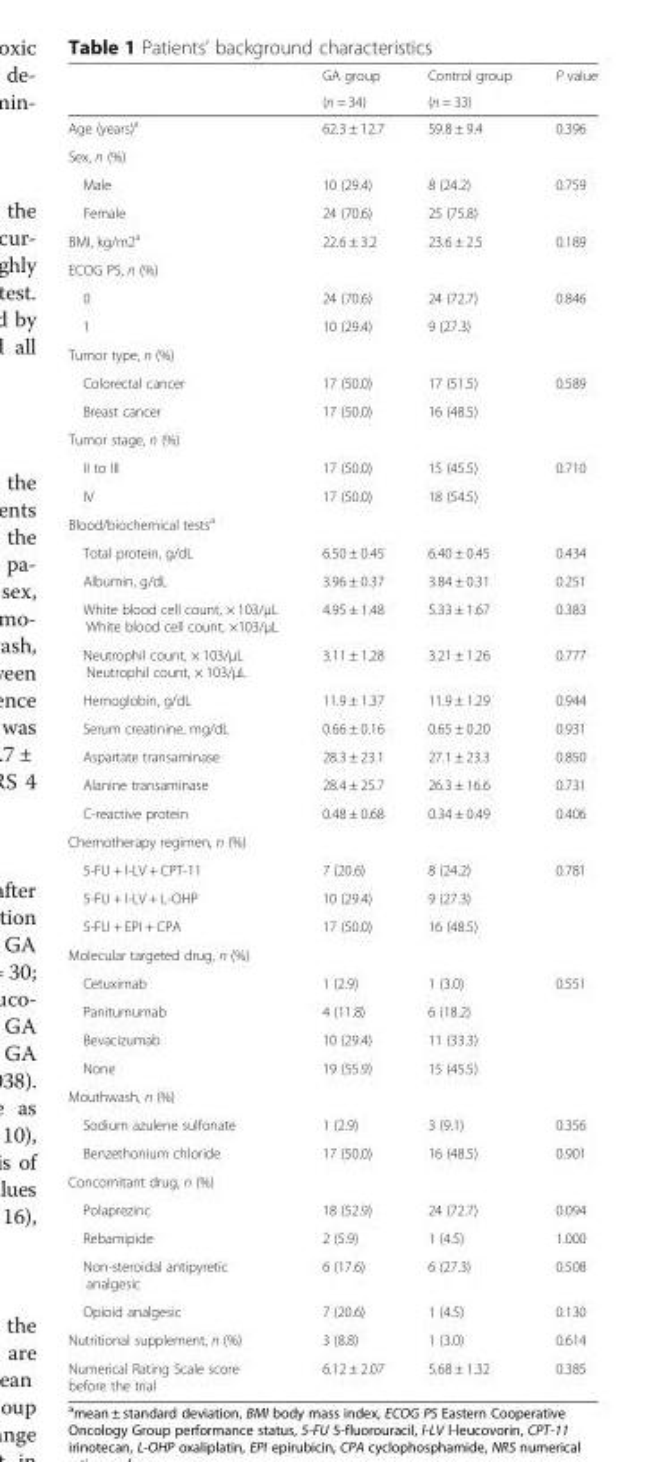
<table><thead><tr><td rowspan="2"></td><td rowspan="2">GA group (n = 34)</td><td rowspan="2">Control group (n = 33)</td><td rowspan="2">P value</td></tr><tr></tr></thead><tbody><tr><td>Age (years)<sup>a</sup></td><td>62.3 ± 12.7</td><td>59.8 ± 9.4</td><td>0.396</td></tr><tr><td colspan="4">Sex, n (%)</td></tr><tr><td>Male</td><td>10 (29.4)</td><td>8 (24.2)</td><td rowspan="2">0.759</td></tr><tr><td>Female</td><td>24 (70.6)</td><td>25 (75.8)</td></tr><tr><td>BMI, kg/m2<sup>a</sup></td><td>22.6 ± 3.2</td><td>23.6 ± 2.5</td><td>0.189</td></tr><tr><td colspan="4">ECOG PS, n (%)</td></tr><tr><td>0</td><td>24 (70.6)</td><td>24 (72.7)</td><td rowspan="2">0.846</td></tr><tr><td>1</td><td>10 (29.4)</td><td>9 (27.3)</td></tr><tr><td colspan="4">Tumor type, n (%)</td></tr><tr><td>Colorectal cancer</td><td>17 (50.0)</td><td>17 (51.5)</td><td rowspan="2">0.589</td></tr><tr><td>Breast cancer</td><td>17 (50.0)</td><td>16 (48.5)</td></tr><tr><td colspan="4">Tumor stage, n (%)</td></tr><tr><td>II to III</td><td>17 (50.0)</td><td>15 (45.5)</td><td rowspan="2">0.710</td></tr><tr><td>IV</td><td>17 (50.0)</td><td>18 (54.5)</td></tr><tr><td colspan="4">Blood/biochemical tests<sup>a</sup></td></tr><tr><td>Total protein, g/dL</td><td>6.50 ± 0.45</td><td>6.40 ± 0.45</td><td>0.434</td></tr><tr><td>Albumin, g/dL</td><td>3.96 ± 0.37</td><td>3.84 ± 0.31</td><td>0.251</td></tr><tr><td>White blood cell count, × 103/μL White blood cell count, ×103/μL</td><td>4.95 ± 1.48</td><td>5.33 ± 1.67</td><td>0.383</td></tr><tr><td>Neutrophil count, × 103/μL Neutrophil count, × 103/μL</td><td>3.11 ± 1.28</td><td>3.21 ± 1.26</td><td>0.777</td></tr><tr><td>Hemoglobin, g/dL</td><td>11.9 ± 1.37</td><td>11.9 ± 1.29</td><td>0.944</td></tr><tr><td>Serum creatinine, mg/dL</td><td>0.66 ± 0.16</td><td>0.65 ± 0.20</td><td>0.931</td></tr><tr><td>Aspartate transaminase</td><td>28.3 ± 23.1</td><td>27.1 ± 23.3</td><td>0.850</td></tr><tr><td>Alanine transaminase</td><td>28.4 ± 25.7</td><td>26.3 ± 16.6</td><td>0.731</td></tr><tr><td>C-reactive protein</td><td>0.48 ± 0.68</td><td>0.34 ± 0.49</td><td>0.406</td></tr><tr><td colspan="4">Chemotherapy regimen, n (%)</td></tr><tr><td>5-FU + l-LV + CPT-11</td><td>7 (20.6)</td><td>8 (24.2)</td><td rowspan="3">0.781</td></tr><tr><td>5-FU + l-LV + L-OHP</td><td>10 (29.4)</td><td>9 (27.3)</td></tr><tr><td>5-FU + EPI + CPA</td><td>17 (50.0)</td><td>16 (48.5)</td></tr><tr><td colspan="4">Molecular targeted drug, n (%)</td></tr><tr><td>Cetuximab</td><td>1 (2.9)</td><td>1 (3.0)</td><td rowspan="4">0.551</td></tr><tr><td>Panitumumab</td><td>4 (11.8)</td><td>6 (18.2)</td></tr><tr><td>Bevacizumab</td><td>10 (29.4)</td><td>11 (33.3)</td></tr><tr><td>None</td><td>19 (55.9)</td><td>15 (45.5)</td></tr><tr><td colspan="4">Mouthwash, n (%)</td></tr><tr><td>Sodium azulene sulfonate</td><td>1 (2.9)</td><td>3 (9.1)</td><td>0.356</td></tr><tr><td>Benzethonium chloride</td><td>17 (50.0)</td><td>16 (48.5)</td><td>0.901</td></tr><tr><td colspan="4">Concomitant drug, n (%)</td></tr><tr><td>Polaprezinc</td><td>18 (52.9)</td><td>24 (72.7)</td><td>0.094</td></tr><tr><td>Rebamipide</td><td>2 (5.9)</td><td>1 (4.5)</td><td>1.000</td></tr><tr><td>Non-steroidal antipyretic analgesic</td><td>6 (17.6)</td><td>6 (27.3)</td><td>0.508</td></tr><tr><td>Opioid analgesic</td><td>7 (20.6)</td><td>1 (4.5)</td><td>0.130</td></tr><tr><td>Nutritional supplement, n (%)</td><td>3 (8.8)</td><td>1 (3.0)</td><td>0.614</td></tr><tr><td>Numerical Rating Scale score before the trial</td><td>6.12 ± 2.07</td><td>5.68 ± 1.32</td><td>0.385</td></tr></tbody></table>